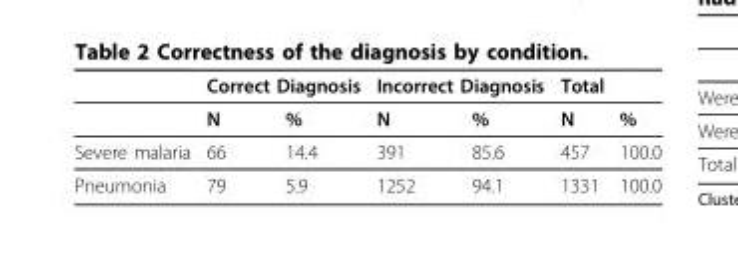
<table><thead><tr><td rowspan="2"></td><td colspan="2">Correct Diagnosis</td><td colspan="2">Incorrect Diagnosis</td><td rowspan="2">Total N</td><td rowspan="2">%</td></tr><tr><td>N</td><td>%</td><td>N</td><td>%</td></tr></thead><tbody><tr><td>Severe malaria</td><td>66</td><td>14.4</td><td>391</td><td>85.6</td><td>457</td><td>100.0</td></tr><tr><td>Pneumonia</td><td>79</td><td>5.9</td><td>1252</td><td>94.1</td><td>1331</td><td>100.0</td></tr></tbody></table>